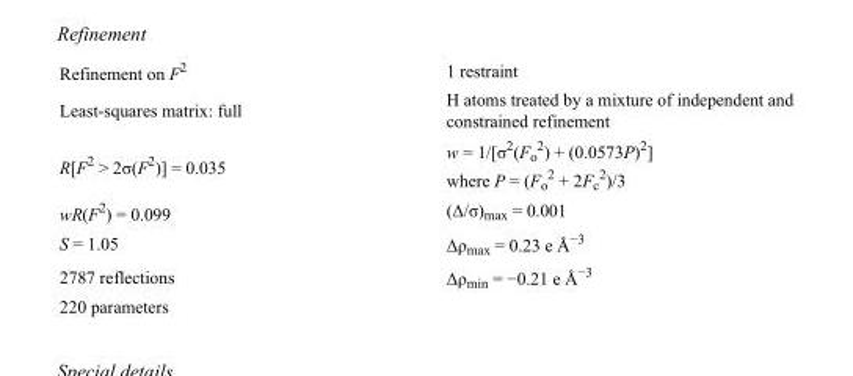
<table><tbody><tr><td>Refinement on F<sup>2</sup></td><td>1 restraint</td></tr><tr><td>Least-squares matrix: full</td><td>H atoms treated by a mixture of independent and constrained refinement</td></tr><tr><td>R[F<sup>2</sup> &gt; 2σ(F<sup>2</sup>)] = 0.035</td><td>w = 1/[σ<sup>2</sup>(F<sub>o</sub> <sup>2</sup>) + (0.0573P)<sup>2</sup>] where P = (F<sub>o</sub> <sup>2</sup> + 2F<sub>c</sub> <sup>2</sup>)/3</td></tr><tr><td>wR(F<sup>2</sup>) = 0.099</td><td>(Δ/σ)<sub>max</sub> = 0.001</td></tr><tr><td>S = 1.05</td><td>Δρ<sub>max</sub> = 0.23 e Å<sup>−3</sup></td></tr><tr><td>2787 reflections</td><td>Δρ<sub>min</sub> = −0.21 e Å<sup>−3</sup></td></tr><tr><td>220 parameters</td><td></td></tr></tbody></table>